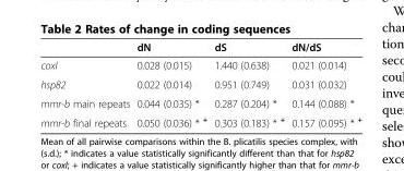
<table><thead><tr><td></td><td>dN</td><td>dS</td><td>dN/dS</td></tr></thead><tbody><tr><td>coxI</td><td>0.028 (0.015)</td><td>1.440 (0.638)</td><td>0.021 (0.014)</td></tr><tr><td>hsp82</td><td>0.022 (0.014)</td><td>0.951 (0.749)</td><td>0.031 (0.032)</td></tr><tr><td>mmr-b main repeats</td><td>0.044 (0.035) *</td><td>0.287 (0.204) *</td><td>0.144 (0.088) *</td></tr><tr><td>mmr-b final repeats</td><td>0.050 (0.036) * <sup>+</sup></td><td>0.303 (0.183) * <sup>+</sup></td><td>0.157 (0.095) * <sup>+</sup></td></tr></tbody></table>